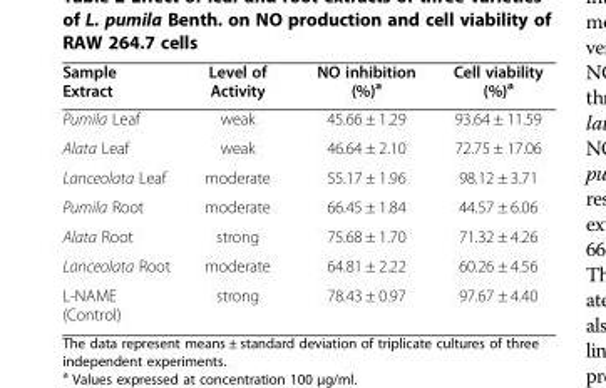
<table><thead><tr><td>Sample Extract</td><td>Level of Activity</td><td>NO inhibition (%)<sup>a</sup></td><td>Cell viability (%)<sup>a</sup></td></tr></thead><tbody><tr><td>Pumila Leaf</td><td>weak</td><td>45.66 ± 1.29</td><td>93.64 ± 11.59</td></tr><tr><td>Alata Leaf</td><td>weak</td><td>46.64 ± 2.10</td><td>72.75 ± 17.06</td></tr><tr><td>Lanceolata Leaf</td><td>moderate</td><td>55.17 ± 1.96</td><td>98.12 ± 3.71</td></tr><tr><td>Pumila Root</td><td>moderate</td><td>66.45 ± 1.84</td><td>44.57 ± 6.06</td></tr><tr><td>Alata Root</td><td>strong</td><td>75.68 ± 1.70</td><td>71.32 ± 4.26</td></tr><tr><td>Lanceolata Root</td><td>moderate</td><td>64.81 ± 2.22</td><td>60.26 ± 4.56</td></tr><tr><td>L-NAME (Control)</td><td>strong</td><td>78.43 ± 0.97</td><td>97.67 ± 4.40</td></tr></tbody></table>